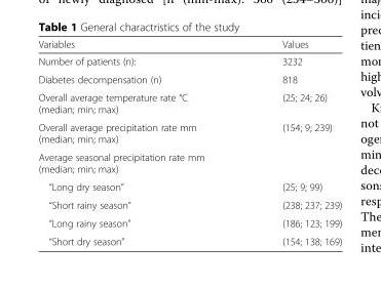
<table><thead><tr><td>Variables</td><td>Values</td></tr></thead><tbody><tr><td>Number of patients (n):</td><td>3232</td></tr><tr><td>Diabetes decompensation (n)</td><td>818</td></tr><tr><td>Overall average temperature rate °C (median; min; max)</td><td>(25; 24; 26)</td></tr><tr><td>Overall average precipitation rate mm (median; min; max)</td><td>(154; 9; 239)</td></tr><tr><td colspan="2">Average seasonal precipitation rate mm (median; min; max)</td></tr><tr><td>“Long dry season”</td><td>(25; 9; 99)</td></tr><tr><td>“Short rainy season”</td><td>(238; 237; 239)</td></tr><tr><td>“Long rainy season”</td><td>(186; 123; 199)</td></tr><tr><td>“Short dry season”</td><td>(154; 138; 169)</td></tr></tbody></table>